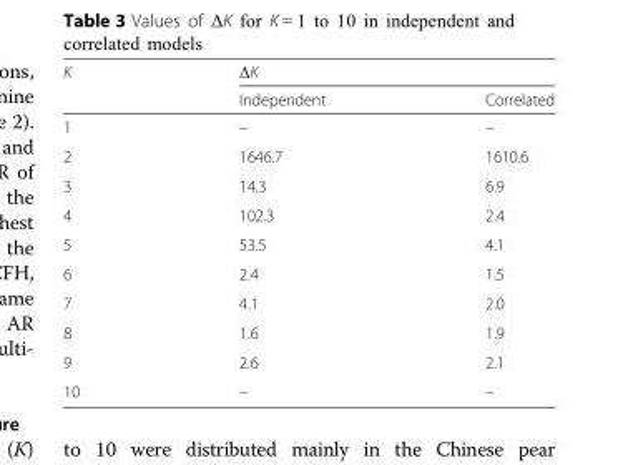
<table><thead><tr><td rowspan="2">K</td><td colspan="2">ΔK</td></tr><tr><td>Independent</td><td>Correlated</td></tr></thead><tbody><tr><td>1</td><td>–</td><td>–</td></tr><tr><td>2</td><td>1646.7</td><td>1610.6</td></tr><tr><td>3</td><td>14.3</td><td>6.9</td></tr><tr><td>4</td><td>102.3</td><td>2.4</td></tr><tr><td>5</td><td>53.5</td><td>4.1</td></tr><tr><td>6</td><td>2.4</td><td>1.5</td></tr><tr><td>7</td><td>4.1</td><td>2.0</td></tr><tr><td>8</td><td>1.6</td><td>1.9</td></tr><tr><td>9</td><td>2.6</td><td>2.1</td></tr><tr><td>10</td><td>–</td><td>–</td></tr></tbody></table>